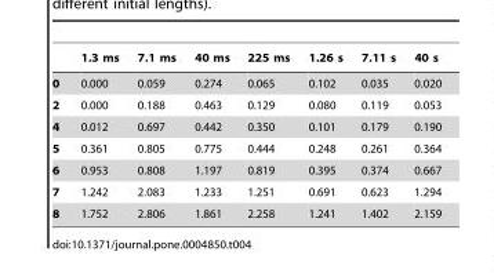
<table><thead><tr><td></td><td>1.3 ms</td><td>7.1 ms</td><td>40 ms</td><td>225 ms</td><td>1.26 s</td><td>7.11 s</td><td>40 s</td></tr></thead><tbody><tr><td>0</td><td>0.000</td><td>0.059</td><td>0.274</td><td>0.065</td><td>0.102</td><td>0.035</td><td>0.020</td></tr><tr><td>2</td><td>0.000</td><td>0.188</td><td>0.463</td><td>0.129</td><td>0.080</td><td>0.119</td><td>0.053</td></tr><tr><td>4</td><td>0.012</td><td>0.697</td><td>0.442</td><td>0.350</td><td>0.101</td><td>0.179</td><td>0.190</td></tr><tr><td>5</td><td>0.361</td><td>0.805</td><td>0.775</td><td>0.444</td><td>0.248</td><td>0.261</td><td>0.364</td></tr><tr><td>6</td><td>0.953</td><td>0.808</td><td>1.197</td><td>0.819</td><td>0.395</td><td>0.374</td><td>0.667</td></tr><tr><td>7</td><td>1.242</td><td>2.083</td><td>1.233</td><td>1.251</td><td>0.691</td><td>0.623</td><td>1.294</td></tr><tr><td>8</td><td>1.752</td><td>2.806</td><td>1.861</td><td>2.258</td><td>1.241</td><td>1.402</td><td>2.159</td></tr></tbody></table>